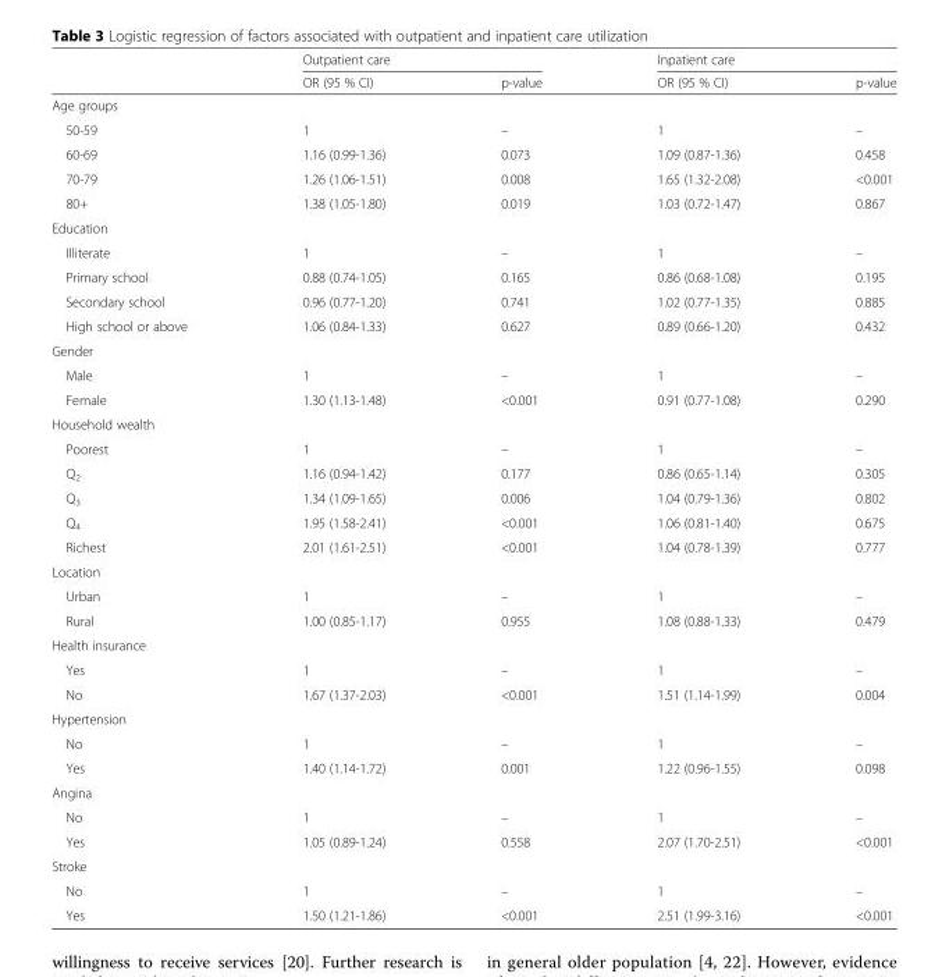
<table><thead><tr><td rowspan="2"></td><td colspan="2">Outpatient care</td><td colspan="2">Inpatient care</td></tr><tr><td>OR (95 % CI)</td><td>p-value</td><td>OR (95 % CI)</td><td>p-value</td></tr></thead><tbody><tr><td colspan="5">Age groups</td></tr><tr><td>50-59</td><td>1</td><td>–</td><td>1</td><td>–</td></tr><tr><td>60-69</td><td>1.16 (0.99-1.36)</td><td>0.073</td><td>1.09 (0.87-1.36)</td><td>0.458</td></tr><tr><td>70-79</td><td>1.26 (1.06-1.51)</td><td>0.008</td><td>1.65 (1.32-2.08)</td><td>&lt;0.001</td></tr><tr><td>80+</td><td>1.38 (1.05-1.80)</td><td>0.019</td><td>1.03 (0.72-1.47)</td><td>0.867</td></tr><tr><td colspan="5">Education</td></tr><tr><td>Illiterate</td><td>1</td><td>–</td><td>1</td><td>–</td></tr><tr><td>Primary school</td><td>0.88 (0.74-1.05)</td><td>0.165</td><td>0.86 (0.68-1.08)</td><td>0.195</td></tr><tr><td>Secondary school</td><td>0.96 (0.77-1.20)</td><td>0.741</td><td>1.02 (0.77-1.35)</td><td>0.885</td></tr><tr><td>High school or above</td><td>1.06 (0.84-1.33)</td><td>0.627</td><td>0.89 (0.66-1.20)</td><td>0.432</td></tr><tr><td colspan="5">Gender</td></tr><tr><td>Male</td><td>1</td><td>–</td><td>1</td><td>–</td></tr><tr><td>Female</td><td>1.30 (1.13-1.48)</td><td>&lt;0.001</td><td>0.91 (0.77-1.08)</td><td>0.290</td></tr><tr><td colspan="5">Household wealth</td></tr><tr><td>Poorest</td><td>1</td><td>–</td><td>1</td><td>–</td></tr><tr><td>Q<sub>2</sub></td><td>1.16 (0.94-1.42)</td><td>0.177</td><td>0.86 (0.65-1.14)</td><td>0.305</td></tr><tr><td>Q<sub>3</sub></td><td>1.34 (1.09-1.65)</td><td>0.006</td><td>1.04 (0.79-1.36)</td><td>0.802</td></tr><tr><td>Q<sub>4</sub></td><td>1.95 (1.58-2.41)</td><td>&lt;0.001</td><td>1.06 (0.81-1.40)</td><td>0.675</td></tr><tr><td>Richest</td><td>2.01 (1.61-2.51)</td><td>&lt;0.001</td><td>1.04 (0.78-1.39)</td><td>0.777</td></tr><tr><td colspan="5">Location</td></tr><tr><td>Urban</td><td>1</td><td>–</td><td>1</td><td>–</td></tr><tr><td>Rural</td><td>1.00 (0.85-1.17)</td><td>0.955</td><td>1.08 (0.88-1.33)</td><td>0.479</td></tr><tr><td colspan="5">Health insurance</td></tr><tr><td>Yes</td><td>1</td><td>–</td><td>1</td><td>–</td></tr><tr><td>No</td><td>1.67 (1.37-2.03)</td><td>&lt;0.001</td><td>1.51 (1.14-1.99)</td><td>0.004</td></tr><tr><td colspan="5">Hypertension</td></tr><tr><td>No</td><td>1</td><td>–</td><td>1</td><td>–</td></tr><tr><td>Yes</td><td>1.40 (1.14-1.72)</td><td>0.001</td><td>1.22 (0.96-1.55)</td><td>0.098</td></tr><tr><td colspan="5">Angina</td></tr><tr><td>No</td><td>1</td><td>–</td><td>1</td><td>–</td></tr><tr><td>Yes</td><td>1.05 (0.89-1.24)</td><td>0.558</td><td>2.07 (1.70-2.51)</td><td>&lt;0.001</td></tr><tr><td colspan="5">Stroke</td></tr><tr><td>No</td><td>1</td><td>–</td><td>1</td><td>–</td></tr><tr><td>Yes</td><td>1.50 (1.21-1.86)</td><td>&lt;0.001</td><td>2.51 (1.99-3.16)</td><td>&lt;0.001</td></tr></tbody></table>